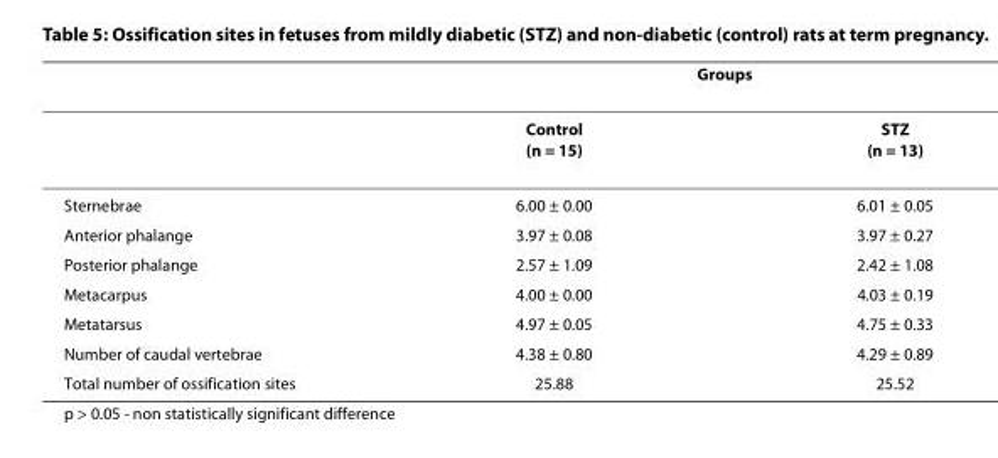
<table><thead><tr><td rowspan="2"></td><td colspan="2">Groups</td></tr><tr><td>Control (n = 15)</td><td>STZ (n = 13)</td></tr></thead><tbody><tr><td>Sternebrae</td><td>6.00 ± 0.00</td><td>6.01 ± 0.05</td></tr><tr><td>Anterior phalange</td><td>3.97 ± 0.08</td><td>3.97 ± 0.27</td></tr><tr><td>Posterior phalange</td><td>2.57 ± 1.09</td><td>2.42 ± 1.08</td></tr><tr><td>Metacarpus</td><td>4.00 ± 0.00</td><td>4.03 ± 0.19</td></tr><tr><td>Metatarsus</td><td>4.97 ± 0.05</td><td>4.75 ± 0.33</td></tr><tr><td>Number of caudal vertebrae</td><td>4.38 ± 0.80</td><td>4.29 ± 0.89</td></tr><tr><td>Total number of ossification sites</td><td>25.88</td><td>25.52</td></tr></tbody></table>